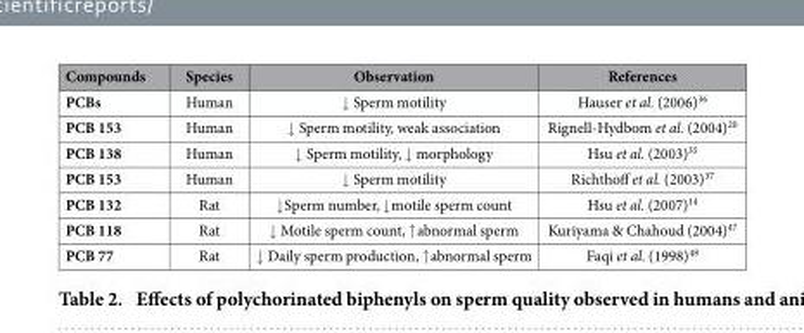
<table><thead><tr><td>Compounds</td><td>Species</td><td>Observation</td><td>References</td></tr></thead><tbody><tr><td>PCBs</td><td>Human</td><td>↓ Sperm motility</td><td>Hauser et al. (2006)<sup>36</sup></td></tr><tr><td>PCB 153</td><td>Human</td><td>↓ Sperm motility, weak association</td><td>Rignell-Hydbom et al. (2004)<sup>20</sup></td></tr><tr><td>PCB 138</td><td>Human</td><td>↓ Sperm motility, ↓ morphology</td><td>Hsu et al. (2003)<sup>35</sup></td></tr><tr><td>PCB 153</td><td>Human</td><td>↓ Sperm motility</td><td>Richthoff et al. (2003)<sup>37</sup></td></tr><tr><td>PCB 132</td><td>Rat</td><td>↓ Sperm number, ↓ motile sperm count</td><td>Hsu et al. (2007)<sup>14</sup></td></tr><tr><td>PCB 118</td><td>Rat</td><td>↓ Motile sperm count, ↑ abnormal sperm</td><td>Kuriyama &amp; Chahoud (2004)<sup>47</sup></td></tr><tr><td>PCB 77</td><td>Rat</td><td>↓ Daily sperm production, ↑ abnormal sperm</td><td>Faqi et al. (1998)<sup>48</sup></td></tr></tbody></table>